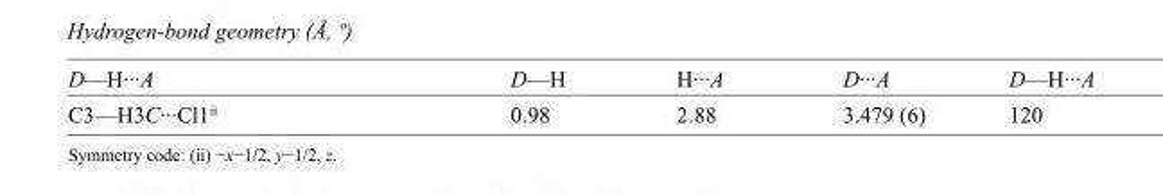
<table><tbody><tr><td>D—H···A</td><td>D—H</td><td>H···A</td><td>D···A</td><td>D—H···A</td></tr><tr><td>C3—H3C···Cl1<sup>ii</sup></td><td>0.98</td><td>2.88</td><td>3.479 (6)</td><td>120</td></tr></tbody></table>